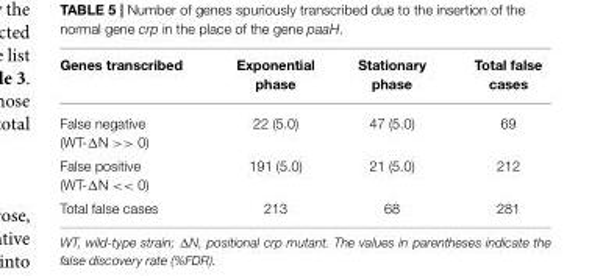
<table><thead><tr><td>Genes transcribed</td><td>Exponential phase</td><td>Stationary phase</td><td>Total false cases</td></tr></thead><tbody><tr><td>False negative (WT-ΔN &gt;&gt; 0)</td><td>22 (5.0)</td><td>47 (5.0)</td><td>69</td></tr><tr><td>False positive (WT-ΔN &lt;&lt; 0)</td><td>191 (5.0)</td><td>21 (5.0)</td><td>212</td></tr><tr><td>Total false cases</td><td>213</td><td>68</td><td>281</td></tr></tbody></table>